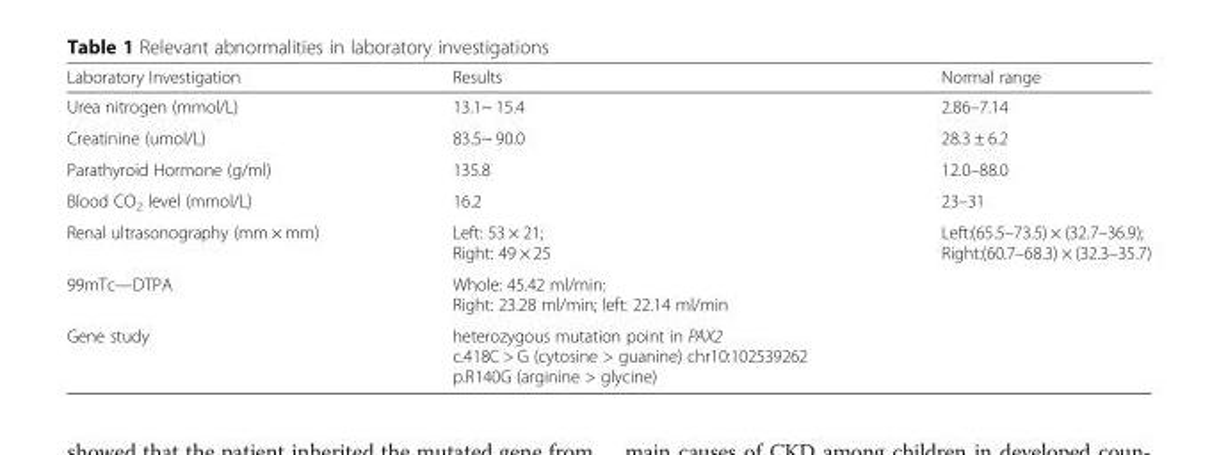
<table><thead><tr><td>Laboratory Investigation</td><td>Results</td><td>Normal range</td></tr></thead><tbody><tr><td>Urea nitrogen (mmol/L)</td><td>13.1~ 15.4</td><td>2.86–7.14</td></tr><tr><td>Creatinine (umol/L)</td><td>83.5~ 90.0</td><td>28.3 ± 6.2</td></tr><tr><td>Parathyroid Hormone (g/ml)</td><td>135.8</td><td>12.0–88.0</td></tr><tr><td>Blood CO<sub>2</sub> level (mmol/L)</td><td>16.2</td><td>23–31</td></tr><tr><td>Renal ultrasonography (mm × mm)</td><td>Left: 53 × 21; Right: 49 × 25</td><td>Left:(65.5–73.5) × (32.7–36.9); Right:(60.7–68.3) × (32.3–35.7)</td></tr><tr><td>99mTc—DTPA</td><td>Whole: 45.42 ml/min: Right: 23.28 ml/min; left: 22.14 ml/min</td><td></td></tr><tr><td>Gene study</td><td>heterozygous mutation point in PAX2 c.418C &gt; G (cytosine &gt; guanine) chr10:102539262 p.R140G (arginine &gt; glycine)</td><td></td></tr></tbody></table>